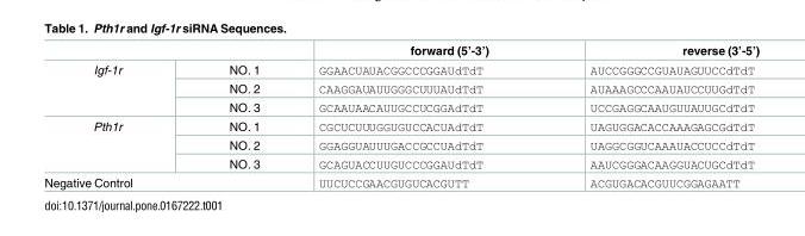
<table><thead><tr><td></td><td></td><td>forward (5’-3’)</td><td>reverse (3’-5’)</td></tr></thead><tbody><tr><td rowspan="3">Igf-1r</td><td>NO. 1</td><td>GGAACUAUACGGCCCGGAUdTdT</td><td>AUCCGGGCCGUAUAGUUCCdTdT</td></tr><tr><td>NO. 2</td><td>CAAGGAUAUUGGGCUUUAUdTdT</td><td>AUAAAGCCCAAUAUCCUUGdTdT</td></tr><tr><td>NO. 3</td><td>GCAAUAACAUUGCCUCGGAdTdT</td><td>UCCGAGGCAAUGUUAUUGCdTdT</td></tr><tr><td rowspan="3">Pth1r</td><td>NO. 1</td><td>CGCUCUUUGGUGUCCACUAdTdT</td><td>UAGUGGACACCAAAGAGCGdTdT</td></tr><tr><td>NO. 2</td><td>GGAGGUAUUUGACCGCCUAdTdT</td><td>UAGGCGGUCAAAUACCUCCdTdT</td></tr><tr><td>NO. 3</td><td>GCAGUACCUUGUCCCGGAUdTdT</td><td>AAUCGGGACAAGGUACUGCdTdT</td></tr><tr><td colspan="2">Negative Control</td><td>UUCUCCGAACGUGUCACGUTT</td><td>ACGUGACACGUUCGGAGAATT</td></tr></tbody></table>